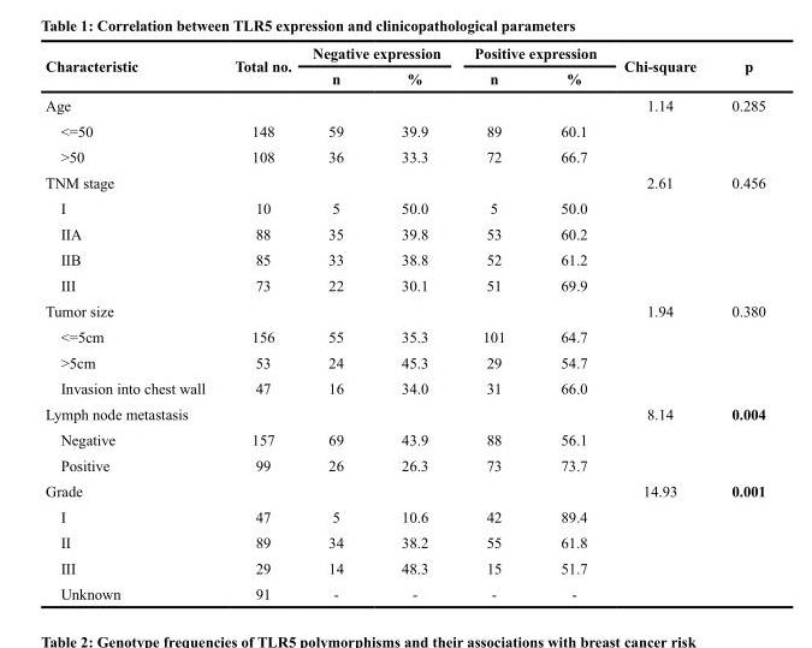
<table><thead><tr><td rowspan="2">Characteristic</td><td rowspan="2">Total no.</td><td colspan="2">Negative expression</td><td colspan="2">Positive expression</td><td rowspan="2">Chi-square</td><td rowspan="2">p</td></tr><tr><td>n</td><td>%</td><td>n</td><td>%</td></tr></thead><tbody><tr><td>Age</td><td></td><td></td><td></td><td></td><td></td><td>1.14</td><td>0.285</td></tr><tr><td>&lt;=50</td><td>148</td><td>59</td><td>39.9</td><td>89</td><td>60.1</td><td></td><td></td></tr><tr><td>&gt;50</td><td>108</td><td>36</td><td>33.3</td><td>72</td><td>66.7</td><td></td><td></td></tr><tr><td>TNM stage</td><td></td><td></td><td></td><td></td><td></td><td>2.61</td><td>0.456</td></tr><tr><td>I</td><td>10</td><td>5</td><td>50.0</td><td>5</td><td>50.0</td><td></td><td></td></tr><tr><td>IIA</td><td>88</td><td>35</td><td>39.8</td><td>53</td><td>60.2</td><td></td><td></td></tr><tr><td>IIB</td><td>85</td><td>33</td><td>38.8</td><td>52</td><td>61.2</td><td></td><td></td></tr><tr><td>III</td><td>73</td><td>22</td><td>30.1</td><td>51</td><td>69.9</td><td></td><td></td></tr><tr><td>Tumor size</td><td></td><td></td><td></td><td></td><td></td><td>1.94</td><td>0.380</td></tr><tr><td>&lt;=5cm</td><td>156</td><td>55</td><td>35.3</td><td>101</td><td>64.7</td><td></td><td></td></tr><tr><td>&gt;5cm</td><td>53</td><td>24</td><td>45.3</td><td>29</td><td>54.7</td><td></td><td></td></tr><tr><td>Invasion into chest wall</td><td>47</td><td>16</td><td>34.0</td><td>31</td><td>66.0</td><td></td><td></td></tr><tr><td>Lymph node metastasis</td><td></td><td></td><td></td><td></td><td></td><td>8.14</td><td>0.004</td></tr><tr><td>Negative</td><td>157</td><td>69</td><td>43.9</td><td>88</td><td>56.1</td><td></td><td></td></tr><tr><td>Positive</td><td>99</td><td>26</td><td>26.3</td><td>73</td><td>73.7</td><td></td><td></td></tr><tr><td>Grade</td><td></td><td></td><td></td><td></td><td></td><td>14.93</td><td>0.001</td></tr><tr><td>I</td><td>47</td><td>5</td><td>10.6</td><td>42</td><td>89.4</td><td></td><td></td></tr><tr><td>II</td><td>89</td><td>34</td><td>38.2</td><td>55</td><td>61.8</td><td></td><td></td></tr><tr><td>III</td><td>29</td><td>14</td><td>48.3</td><td>15</td><td>51.7</td><td></td><td></td></tr><tr><td>Unknown</td><td>91</td><td>-</td><td>-</td><td>-</td><td>-</td><td></td><td></td></tr></tbody></table>